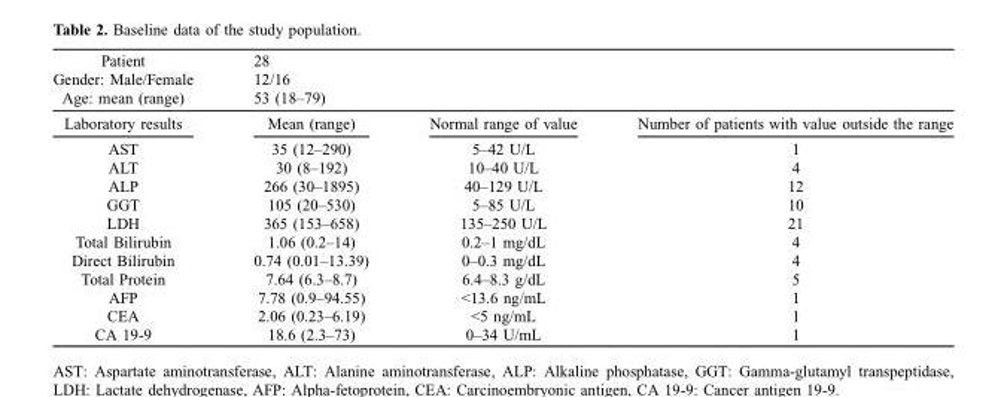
<table><tbody><tr><td>Patient</td><td colspan="3">28</td></tr><tr><td>Gender: Male/Female</td><td colspan="3">12/16</td></tr><tr><td>Age: mean (range)</td><td colspan="3">53 (18–79)</td></tr><tr><td>Laboratory results</td><td>Mean (range)</td><td>Normal range of value</td><td>Number of patients with value outside the range</td></tr><tr><td>AST</td><td>35 (12–290)</td><td>5–42 U/L</td><td>1</td></tr><tr><td>ALT</td><td>30 (8–192)</td><td>10–40 U/L</td><td>4</td></tr><tr><td>ALP</td><td>266 (30–1895)</td><td>40–129 U/L</td><td>12</td></tr><tr><td>GGT</td><td>105 (20–530)</td><td>5–85 U/L</td><td>10</td></tr><tr><td>LDH</td><td>365 (153–658)</td><td>135–250 U/L</td><td>21</td></tr><tr><td>Total Bilirubin</td><td>1.06 (0.2–14)</td><td>0.2–1 mg/dL</td><td>4</td></tr><tr><td>Direct Bilirubin</td><td>0.74 (0.01–13.39)</td><td>0–0.3 mg/dL</td><td>4</td></tr><tr><td>Total Protein</td><td>7.64 (6.3–8.7)</td><td>6.4–8.3 g/dL</td><td>5</td></tr><tr><td>AFP</td><td>7.78 (0.9–94.55)</td><td>&lt;13.6 ng/mL</td><td>1</td></tr><tr><td>CEA</td><td>2.06 (0.23–6.19)</td><td>&lt;5 ng/mL</td><td>1</td></tr><tr><td>CA 19-9</td><td>18.6 (2.3–73)</td><td>0–34 U/mL</td><td>1</td></tr></tbody></table>